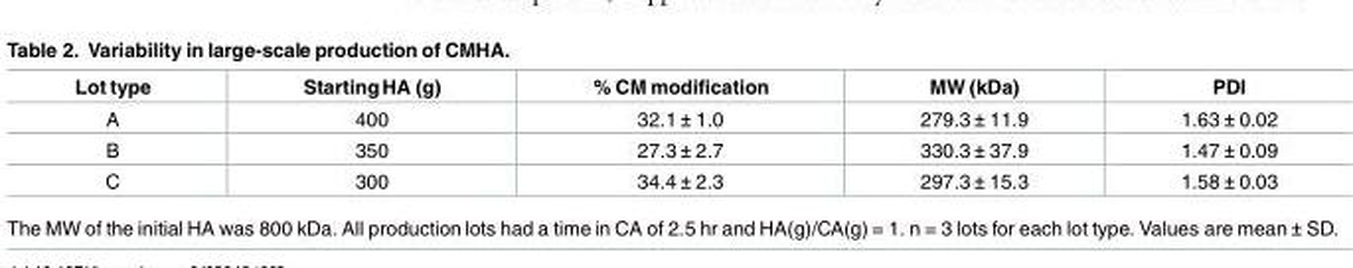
<table><thead><tr><td>Lot type</td><td>StartingHA (g)</td><td>% CM modification</td><td>MW (kDa)</td><td>PDI</td></tr></thead><tbody><tr><td>A</td><td>400</td><td>32.1 ± 1.0</td><td>279.3 ± 11.9</td><td>1.63 ± 0.02</td></tr><tr><td>B</td><td>350</td><td>27.3 ± 2.7</td><td>330.3 ± 37.9</td><td>1.47 ± 0.09</td></tr><tr><td>C</td><td>300</td><td>34.4 ± 2.3</td><td>297.3 ± 15.3</td><td>1.58 ± 0.03</td></tr></tbody></table>